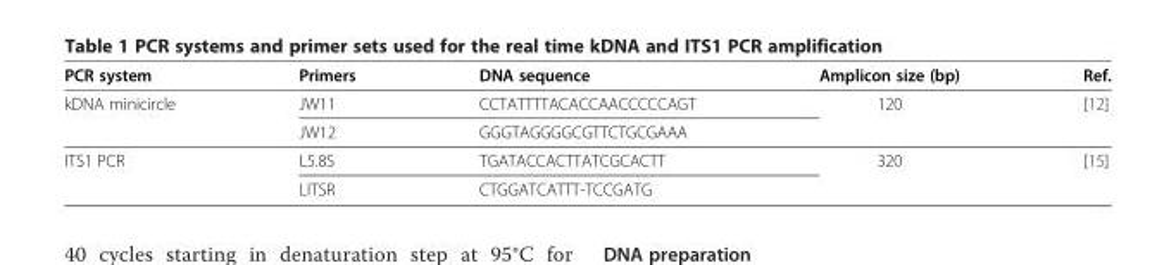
<table><thead><tr><td>PCR system</td><td>Primers</td><td>DNA sequence</td><td>Amplicon size (bp)</td><td>Ref.</td></tr></thead><tbody><tr><td rowspan="2">kDNA minicircle</td><td>JW11</td><td>CCTATTTTACACCAACCCCCAGT</td><td>120</td><td>[12]</td></tr><tr><td>JW12</td><td>GGGTAGGGGCGTTCTGCGAAA</td><td></td><td></td></tr><tr><td rowspan="2">ITS1 PCR</td><td>L5.8S</td><td>TGATACCACTTATCGCACTT</td><td>320</td><td>[15]</td></tr><tr><td>LITSR</td><td>CTGGATCATTT-TCCGATG</td><td></td><td></td></tr></tbody></table>